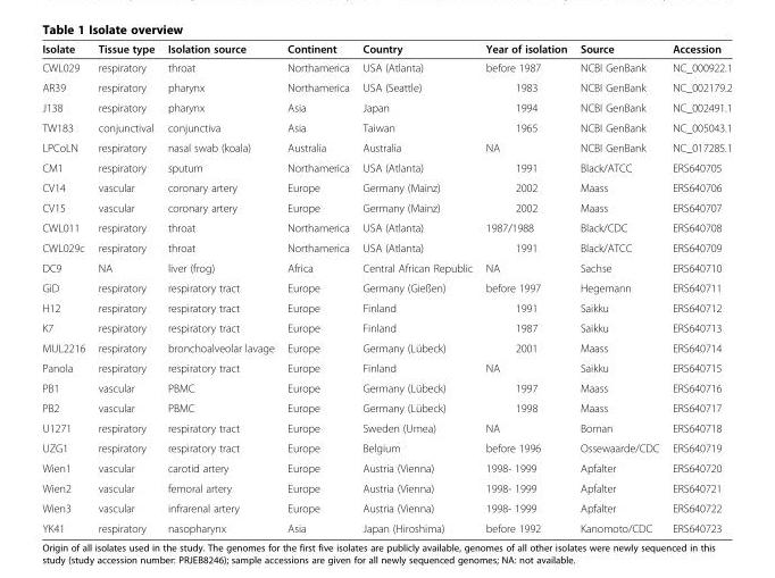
<table><thead><tr><td>Isolate</td><td>Tissue type</td><td>Isolation source</td><td>Continent</td><td>Country</td><td>Year of isolation</td><td>Source</td><td>Accession</td></tr></thead><tbody><tr><td>CWL029</td><td>respiratory</td><td>throat</td><td>Northamerica</td><td>USA (Atlanta)</td><td>before 1987</td><td>NCBI GenBank</td><td>NC_000922.1</td></tr><tr><td>AR39</td><td>respiratory</td><td>pharynx</td><td>Northamerica</td><td>USA (Seattle)</td><td>1983</td><td>NCBI GenBank</td><td>NC_002179.2</td></tr><tr><td>J138</td><td>respiratory</td><td>pharynx</td><td>Asia</td><td>Japan</td><td>1994</td><td>NCBI GenBank</td><td>NC_002491.1</td></tr><tr><td>TW183</td><td>conjunctival</td><td>conjunctiva</td><td>Asia</td><td>Taiwan</td><td>1965</td><td>NCBI GenBank</td><td>NC_005043.1</td></tr><tr><td>LPCoLN</td><td>respiratory</td><td>nasal swab (koala)</td><td>Australia</td><td>Australia</td><td>NA</td><td>NCBI GenBank</td><td>NC_017285.1</td></tr><tr><td>CM1</td><td>respiratory</td><td>sputum</td><td>Northamerica</td><td>USA (Atlanta)</td><td>1991</td><td>Black/ATCC</td><td>ERS640705</td></tr><tr><td>CV14</td><td>vascular</td><td>coronary artery</td><td>Europe</td><td>Germany (Mainz)</td><td>2002</td><td>Maass</td><td>ERS640706</td></tr><tr><td>CV15</td><td>vascular</td><td>coronary artery</td><td>Europe</td><td>Germany (Mainz)</td><td>2002</td><td>Maass</td><td>ERS640707</td></tr><tr><td>CWL011</td><td>respiratory</td><td>throat</td><td>Northamerica</td><td>USA (Atlanta)</td><td>1987/1988</td><td>Black/CDC</td><td>ERS640708</td></tr><tr><td>CWL029c</td><td>respiratory</td><td>throat</td><td>Northamerica</td><td>USA (Atlanta)</td><td>1991</td><td>Black/ATCC</td><td>ERS640709</td></tr><tr><td>DC9</td><td>NA</td><td>liver (frog)</td><td>Africa</td><td>Central African Republic</td><td>NA</td><td>Sachse</td><td>ERS640710</td></tr><tr><td>GiD</td><td>respiratory</td><td>respiratory tract</td><td>Europe</td><td>Germany (Gießen)</td><td>before 1997</td><td>Hegemann</td><td>ERS640711</td></tr><tr><td>H12</td><td>respiratory</td><td>respiratory tract</td><td>Europe</td><td>Finland</td><td>1991</td><td>Saikku</td><td>ERS640712</td></tr><tr><td>K7</td><td>respiratory</td><td>respiratory tract</td><td>Europe</td><td>Finland</td><td>1987</td><td>Saikku</td><td>ERS640713</td></tr><tr><td>MUL2216</td><td>respiratory</td><td>bronchoalveolar lavage</td><td>Europe</td><td>Germany (Lübeck)</td><td>2001</td><td>Maass</td><td>ERS640714</td></tr><tr><td>Panola</td><td>respiratory</td><td>respiratory tract</td><td>Europe</td><td>Finland</td><td>NA</td><td>Saikku</td><td>ERS640715</td></tr><tr><td>PB1</td><td>vascular</td><td>PBMC</td><td>Europe</td><td>Germany (Lübeck)</td><td>1997</td><td>Maass</td><td>ERS640716</td></tr><tr><td>PB2</td><td>vascular</td><td>PBMC</td><td>Europe</td><td>Germany (Lübeck)</td><td>1998</td><td>Maass</td><td>ERS640717</td></tr><tr><td>U1271</td><td>respiratory</td><td>respiratory tract</td><td>Europe</td><td>Sweden (Umea)</td><td>NA</td><td>Boman</td><td>ERS640718</td></tr><tr><td>UZG1</td><td>respiratory</td><td>respiratory tract</td><td>Europe</td><td>Belgium</td><td>before 1996</td><td>Ossewaarde/CDC</td><td>ERS640719</td></tr><tr><td>Wien1</td><td>vascular</td><td>carotid artery</td><td>Europe</td><td>Austria (Vienna)</td><td>1998- 1999</td><td>Apfalter</td><td>ERS640720</td></tr><tr><td>Wien2</td><td>vascular</td><td>femoral artery</td><td>Europe</td><td>Austria (Vienna)</td><td>1998- 1999</td><td>Apfalter</td><td>ERS640721</td></tr><tr><td>Wien3</td><td>vascular</td><td>infrarenal artery</td><td>Europe</td><td>Austria (Vienna)</td><td>1998- 1999</td><td>Apfalter</td><td>ERS640722</td></tr><tr><td>YK41</td><td>respiratory</td><td>nasopharynx</td><td>Asia</td><td>Japan (Hiroshima)</td><td>before 1992</td><td>Kanomoto/CDC</td><td>ERS640723</td></tr></tbody></table>